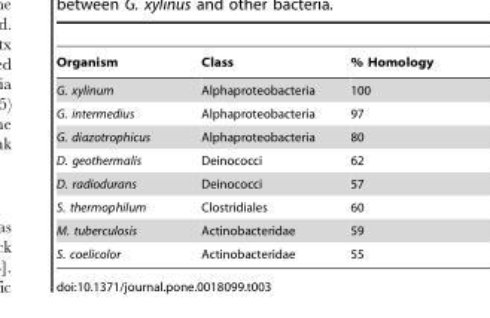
<table><thead><tr><td>Organism</td><td>Class</td><td>% Homology</td></tr></thead><tbody><tr><td>G. xylinum</td><td>Alphaproteobacteria</td><td>100</td></tr><tr><td>G. intermedius</td><td>Alphaproteobacteria</td><td>97</td></tr><tr><td>G. diazotrophicus</td><td>Alphaproteobacteria</td><td>80</td></tr><tr><td>D. geothermalis</td><td>Deinococci</td><td>62</td></tr><tr><td>D. radiodurans</td><td>Deinococci</td><td>57</td></tr><tr><td>S. thermophilum</td><td>Clostridiales</td><td>60</td></tr><tr><td>M. tuberculosis</td><td>Actinobacteridae</td><td>59</td></tr><tr><td>S. coelicolor</td><td>Actinobacteridae</td><td>55</td></tr></tbody></table>